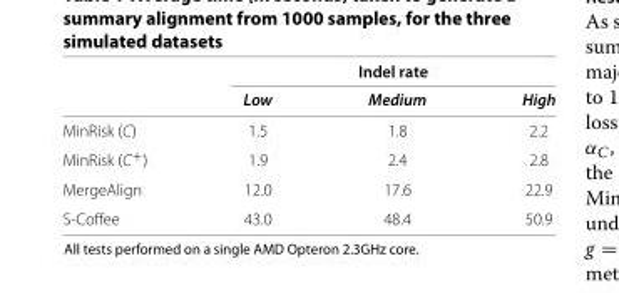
<table><thead><tr><td rowspan="2"></td><td colspan="3">Indel rate</td></tr><tr><td>Low</td><td>Medium</td><td>High</td></tr></thead><tbody><tr><td>MinRisk (C)</td><td>1.5</td><td>1.8</td><td>2.2</td></tr><tr><td>MinRisk (C<sup>+</sup>)</td><td>1.9</td><td>2.4</td><td>2.8</td></tr><tr><td>MergeAlign</td><td>12.0</td><td>17.6</td><td>22.9</td></tr><tr><td>S-Coffee</td><td>43.0</td><td>48.4</td><td>50.9</td></tr></tbody></table>